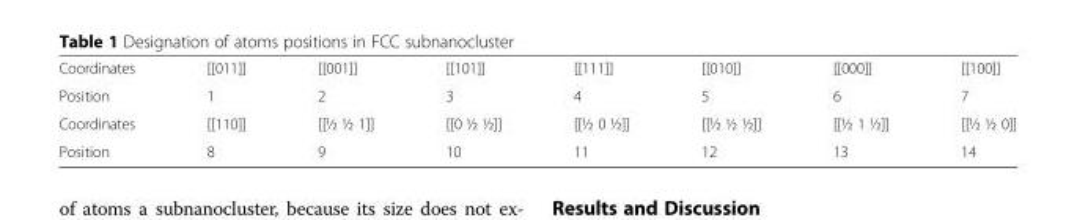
<table><tbody><tr><td>Coordinates</td><td>[[011]]</td><td>[[001]]</td><td>[[101]]</td><td>[[111]]</td><td>[[010]]</td><td>[[000]]</td><td>[[100]]</td></tr><tr><td>Position</td><td>1</td><td>2</td><td>3</td><td>4</td><td>5</td><td>6</td><td>7</td></tr><tr><td>Coordinates</td><td>[[110]]</td><td>[[½ ½ 1]]</td><td>[[0 ½ ½]]</td><td>[[½ 0 ½]]</td><td>[[½ ½ ½]]</td><td>[[½ 1 ½]]</td><td>[[½ ½ 0]]</td></tr><tr><td>Position</td><td>8</td><td>9</td><td>10</td><td>11</td><td>12</td><td>13</td><td>14</td></tr></tbody></table>